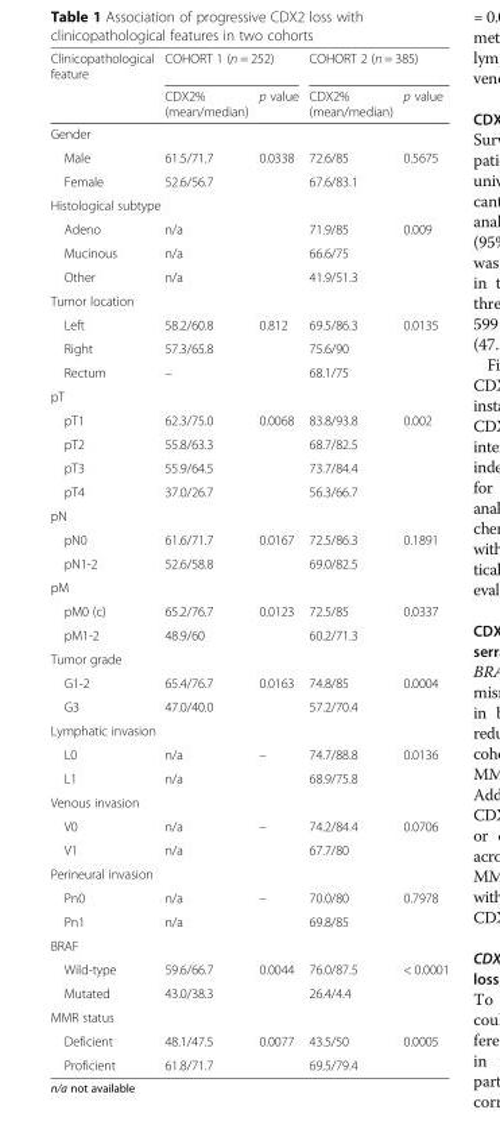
<table><thead><tr><td rowspan="2">Clinicopathological feature</td><td colspan="2">COHORT 1 (n = 252)</td><td colspan="2">COHORT 2 (n = 385)</td></tr><tr><td>CDX2% (mean/median)</td><td>p value</td><td>CDX2% (mean/median)</td><td>p value</td></tr></thead><tbody><tr><td colspan="5">Gender</td></tr><tr><td>Male</td><td>61.5/71.7</td><td>0.0338</td><td>72.6/85</td><td>0.5675</td></tr><tr><td>Female</td><td>52.6/56.7</td><td></td><td>67.6/83.1</td><td></td></tr><tr><td colspan="5">Histological subtype</td></tr><tr><td>Adeno</td><td>n/a</td><td></td><td>71.9/85</td><td>0.009</td></tr><tr><td>Mucinous</td><td>n/a</td><td></td><td>66.6/75</td><td></td></tr><tr><td>Other</td><td>n/a</td><td></td><td>41.9/51.3</td><td></td></tr><tr><td colspan="5">Tumor location</td></tr><tr><td>Left</td><td>58.2/60.8</td><td>0.812</td><td>69.5/86.3</td><td>0.0135</td></tr><tr><td>Right</td><td>57.3/65.8</td><td></td><td>75.6/90</td><td></td></tr><tr><td>Rectum</td><td>–</td><td></td><td>68.1/75</td><td></td></tr><tr><td colspan="5">pT</td></tr><tr><td>pT1</td><td>62.3/75.0</td><td>0.0068</td><td>83.8/93.8</td><td>0.002</td></tr><tr><td>pT2</td><td>55.8/63.3</td><td></td><td>68.7/82.5</td><td></td></tr><tr><td>pT3</td><td>55.9/64.5</td><td></td><td>73.7/84.4</td><td></td></tr><tr><td>pT4</td><td>37.0/26.7</td><td></td><td>56.3/66.7</td><td></td></tr><tr><td colspan="5">pN</td></tr><tr><td>pN0</td><td>61.6/71.7</td><td>0.0167</td><td>72.5/86.3</td><td>0.1891</td></tr><tr><td>pN1-2</td><td>52.6/58.8</td><td></td><td>69.0/82.5</td><td></td></tr><tr><td colspan="5">pM</td></tr><tr><td>pM0 (c)</td><td>65.2/76.7</td><td>0.0123</td><td>72.5/85</td><td>0.0337</td></tr><tr><td>pM1-2</td><td>48.9/60</td><td></td><td>60.2/71.3</td><td></td></tr><tr><td colspan="5">Tumor grade</td></tr><tr><td>G1-2</td><td>65.4/76.7</td><td>0.0163</td><td>74.8/85</td><td>0.0004</td></tr><tr><td>G3</td><td>47.0/40.0</td><td></td><td>57.2/70.4</td><td></td></tr><tr><td colspan="5">Lymphatic invasion</td></tr><tr><td>L0</td><td>n/a</td><td>–</td><td>74.7/88.8</td><td>0.0136</td></tr><tr><td>L1</td><td>n/a</td><td></td><td>68.9/75.8</td><td></td></tr><tr><td colspan="5">Venous invasion</td></tr><tr><td>V0</td><td>n/a</td><td>–</td><td>74.2/84.4</td><td>0.0706</td></tr><tr><td>V1</td><td>n/a</td><td></td><td>67.7/80</td><td></td></tr><tr><td colspan="5">Perineural invasion</td></tr><tr><td>Pn0</td><td>n/a</td><td>–</td><td>70.0/80</td><td>0.7978</td></tr><tr><td>Pn1</td><td>n/a</td><td></td><td>69.8/85</td><td></td></tr><tr><td colspan="5">BRAF</td></tr><tr><td>Wild-type</td><td>59.6/66.7</td><td>0.0044</td><td>76.0/87.5</td><td>&lt; 0.0001</td></tr><tr><td>Mutated</td><td>43.0/38.3</td><td></td><td>26.4/4.4</td><td></td></tr><tr><td colspan="5">MMR status</td></tr><tr><td>Deficient</td><td>48.1/47.5</td><td>0.0077</td><td>43.5/50</td><td>0.0005</td></tr><tr><td>Proficient</td><td>61.8/71.7</td><td></td><td>69.5/79.4</td><td></td></tr></tbody></table>